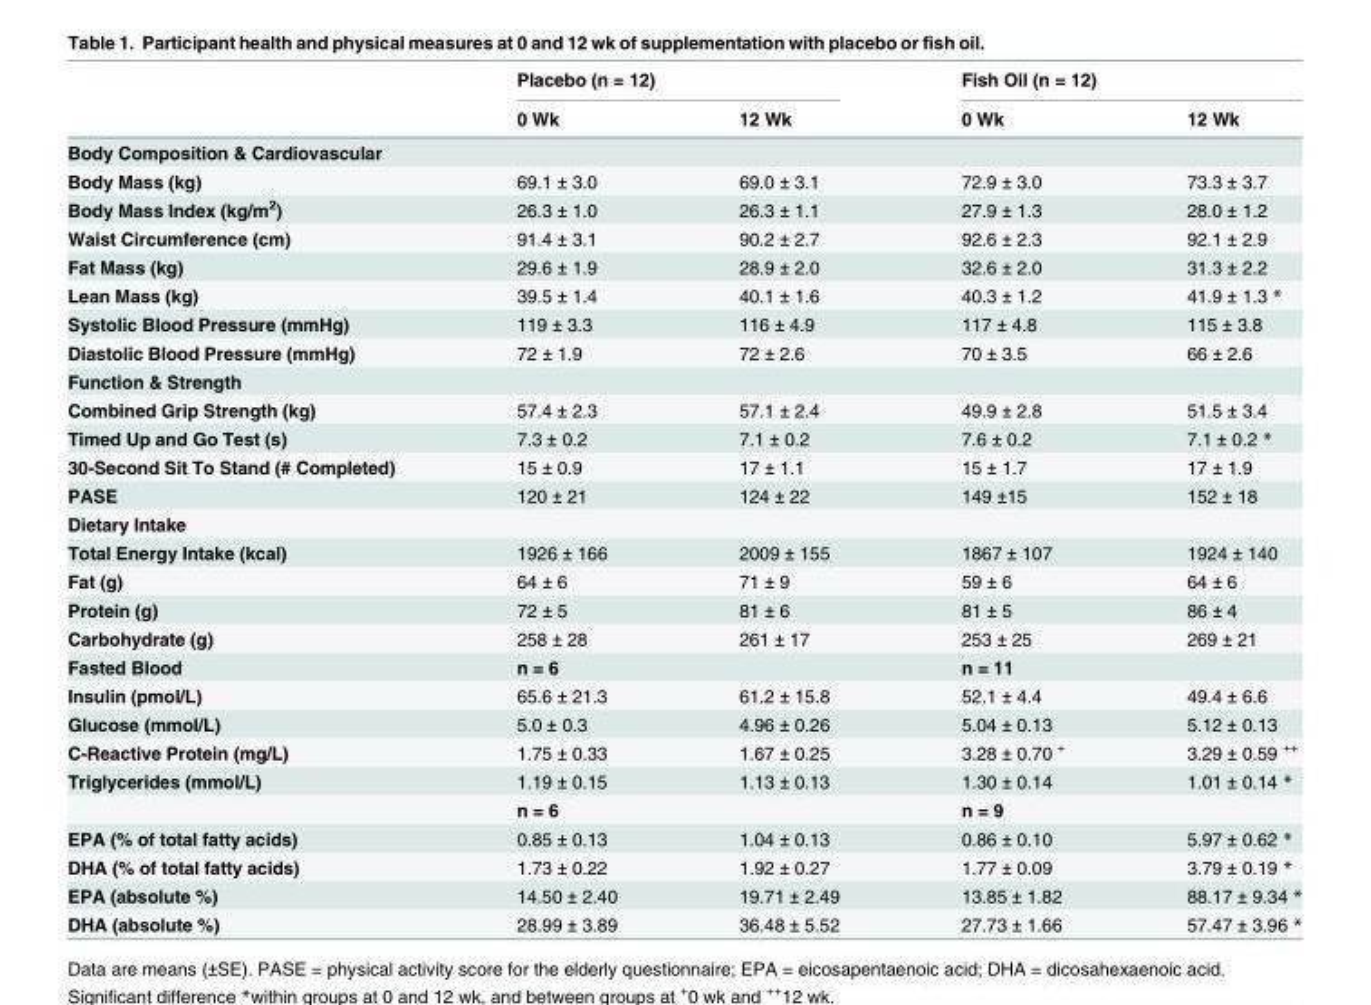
<table><thead><tr><td rowspan="2"></td><td colspan="2">Placebo (n = 12)</td><td colspan="2">Fish Oil (n = 12)</td></tr><tr><td>0 Wk</td><td>12 Wk</td><td>0 Wk</td><td>12 Wk</td></tr></thead><tbody><tr><td colspan="5">Body Composition &amp; Cardiovascular</td></tr><tr><td>Body Mass (kg)</td><td>69.1 ± 3.0</td><td>69.0 ± 3.1</td><td>72.9 ± 3.0</td><td>73.3 ± 3.7</td></tr><tr><td>Body Mass Index (kg/m<sup>2</sup>)</td><td>26.3 ± 1.0</td><td>26.3 ± 1.1</td><td>27.9 ± 1.3</td><td>28.0 ± 1.2</td></tr><tr><td>Waist Circumference (cm)</td><td>91.4 ± 3.1</td><td>90.2 ± 2.7</td><td>92.6 ± 2.3</td><td>92.1 ± 2.9</td></tr><tr><td>Fat Mass (kg)</td><td>29.6 ± 1.9</td><td>28.9 ± 2.0</td><td>32.6 ± 2.0</td><td>31.3 ± 2.2</td></tr><tr><td>Lean Mass (kg)</td><td>39.5 ± 1.4</td><td>40.1 ± 1.6</td><td>40.3 ± 1.2</td><td>41.9 ± 1.3 *</td></tr><tr><td>Systolic Blood Pressure (mmHg)</td><td>119 ± 3.3</td><td>116 ± 4.9</td><td>117 ± 4.8</td><td>115 ± 3.8</td></tr><tr><td>Diastolic Blood Pressure (mmHg)</td><td>72 ± 1.9</td><td>72 ± 2.6</td><td>70 ± 3.5</td><td>66 ± 2.6</td></tr><tr><td colspan="5">Function &amp; Strength</td></tr><tr><td>Combined Grip Strength (kg)</td><td>57.4 ± 2.3</td><td>57.1 ± 2.4</td><td>49.9 ± 2.8</td><td>51.5 ± 3.4</td></tr><tr><td>Timed Up and Go Test (s)</td><td>7.3 ± 0.2</td><td>7.1 ± 0.2</td><td>7.6 ± 0.2</td><td>7.1 ± 0.2 *</td></tr><tr><td>30-Second Sit To Stand (# Completed)</td><td>15 ± 0.9</td><td>17 ± 1.1</td><td>15 ± 1.7</td><td>17 ± 1.9</td></tr><tr><td>PASE</td><td>120 ± 21</td><td>124 ± 22</td><td>149 ±15</td><td>152 ± 18</td></tr><tr><td colspan="5">Dietary Intake</td></tr><tr><td>Total Energy Intake (kcal)</td><td>1926 ± 166</td><td>2009 ± 155</td><td>1867 ± 107</td><td>1924 ± 140</td></tr><tr><td>Fat (g)</td><td>64 ± 6</td><td>71 ± 9</td><td>59 ± 6</td><td>64 ± 6</td></tr><tr><td>Protein (g)</td><td>72 ± 5</td><td>81 ± 6</td><td>81 ± 5</td><td>86 ± 4</td></tr><tr><td>Carbohydrate (g)</td><td>258 ± 28</td><td>261 ± 17</td><td>253 ± 25</td><td>269 ± 21</td></tr><tr><td>Fasted Blood</td><td>n = 6</td><td></td><td>n = 11</td><td></td></tr><tr><td>Insulin (pmol/L)</td><td>65.6 ± 21.3</td><td>61.2 ± 15.8</td><td>52.1 ± 4.4</td><td>49.4 ± 6.6</td></tr><tr><td>Glucose (mmol/L)</td><td>5.0 ± 0.3</td><td>4.96 ± 0.26</td><td>5.04 ± 0.13</td><td>5.12 ± 0.13</td></tr><tr><td>C-Reactive Protein (mg/L)</td><td>1.75 ± 0.33</td><td>1.67 ± 0.25</td><td>3.28 ± 0.70 <sup>+</sup></td><td>3.29 ± 0.59 <sup>++</sup></td></tr><tr><td rowspan="2">Triglycerides (mmol/L)</td><td>1.19 ± 0.15</td><td>1.13 ± 0.13</td><td>1.30 ± 0.14</td><td>1.01 ± 0.14 *</td></tr><tr><td>n = 6</td><td></td><td>n = 9</td><td></td></tr><tr><td>EPA (% of total fatty acids)</td><td>0.85 ± 0.13</td><td>1.04 ± 0.13</td><td>0.86 ± 0.10</td><td>5.97 ± 0.62 *</td></tr><tr><td>DHA (% of total fatty acids)</td><td>1.73 ± 0.22</td><td>1.92 ± 0.27</td><td>1.77 ± 0.09</td><td>3.79 ± 0.19 *</td></tr><tr><td>EPA (absolute %)</td><td>14.50 ± 2.40</td><td>19.71 ± 2.49</td><td>13.85 ± 1.82</td><td>88.17 ± 9.34 *</td></tr><tr><td>DHA (absolute %)</td><td>28.99 ± 3.89</td><td>36.48 ± 5.52</td><td>27.73 ± 1.66</td><td>57.47 ± 3.96 *</td></tr></tbody></table>